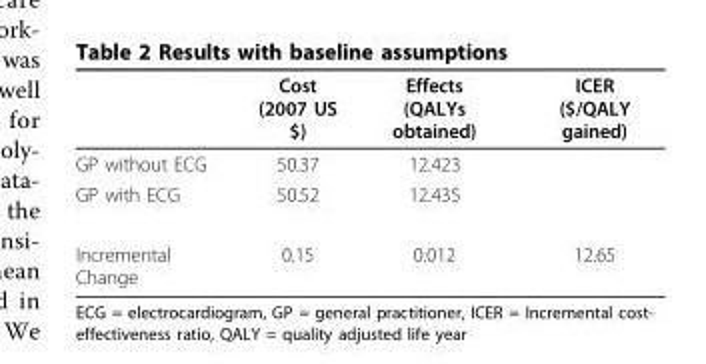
<table><thead><tr><td></td><td>Cost (2007 US $)</td><td>Effects (QALYs obtained)</td><td>ICER ($/QALY gained)</td></tr></thead><tbody><tr><td>GP without ECG</td><td>50.37</td><td>12.423</td><td></td></tr><tr><td>GP with ECG</td><td>50.52</td><td>12.435</td><td></td></tr><tr><td>Incremental Change</td><td>0.15</td><td>0.012</td><td>12.65</td></tr></tbody></table>